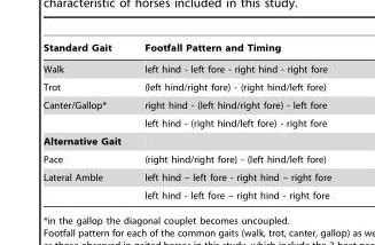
<table><thead><tr><td>Standard Gait</td><td>Footfall Pattern and Timing</td></tr></thead><tbody><tr><td>Walk</td><td>left hind - left fore - right hind - right fore</td></tr><tr><td>Trot</td><td>(left hind/right fore) - (right hind/left fore)</td></tr><tr><td rowspan="2">Canter/Gallop*</td><td>right hind - (left hind/right fore) - left fore</td></tr><tr><td>left hind - (right hind/left fore) - right fore</td></tr><tr><td colspan="2">Alternative Gait</td></tr><tr><td>Pace</td><td>(right hind/right fore) - (left hind/left fore)</td></tr><tr><td rowspan="2">Lateral Amble</td><td>left hind – left fore - right hind – right fore</td></tr><tr><td>left hind - left fore – right hind - right fore</td></tr></tbody></table>